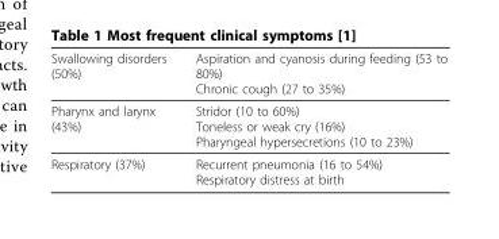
<table><thead><tr><td>Swallowing disorders (50%)</td><td>Aspiration and cyanosis during feeding (53 to 80%) Chronic cough (27 to 35%)</td></tr></thead><tbody><tr><td>Pharynx and larynx (43%)</td><td>Stridor (10 to 60%) Toneless or weak cry (16%) Pharyngeal hypersecretions (10 to 23%)</td></tr><tr><td>Respiratory (37%)</td><td>Recurrent pneumonia (16 to 54%) Respiratory distress at birth</td></tr></tbody></table>